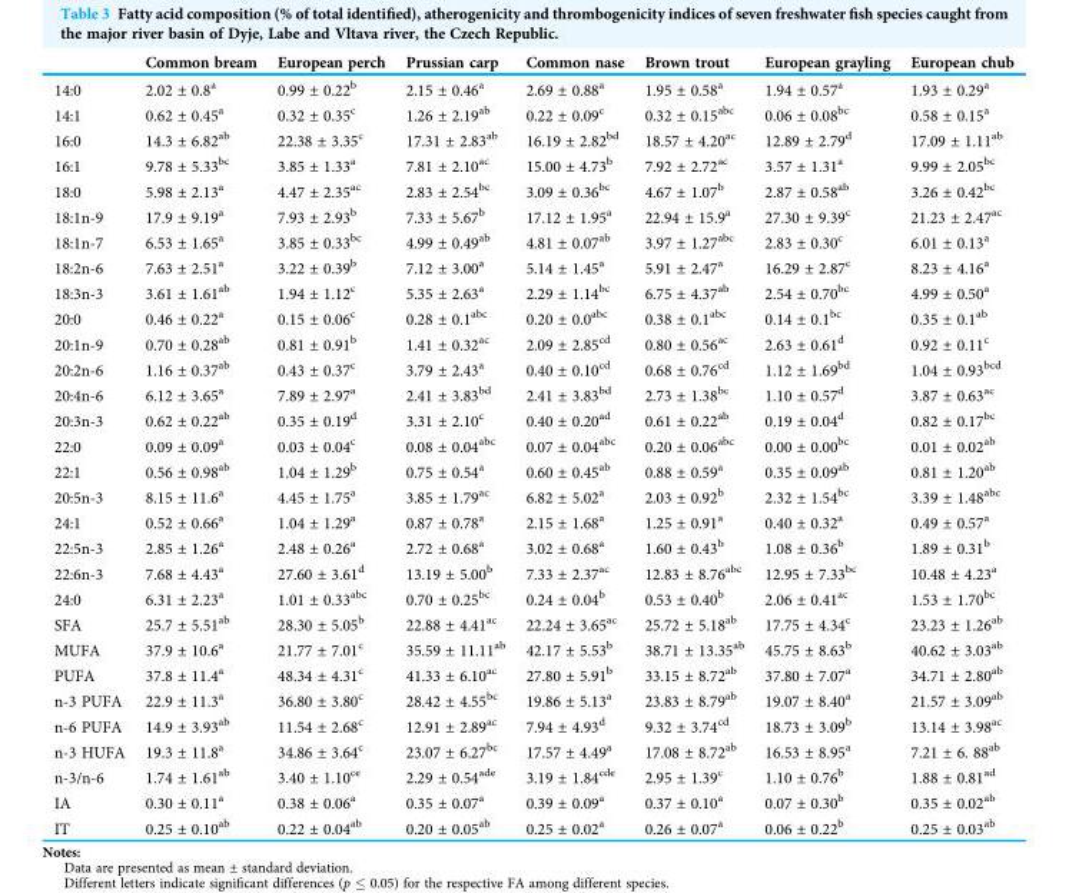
<table><thead><tr><td></td><td>Common bream</td><td>European perch</td><td>Prussian carp</td><td>Common nase</td><td>Brown trout</td><td>European grayling</td><td>European chub</td></tr></thead><tbody><tr><td>14:0</td><td>2.02 ± 0.8<sup>a</sup></td><td>0.99 ± 0.22<sup>b</sup></td><td>2.15 ± 0.46<sup>a</sup></td><td>2.69 ± 0.88<sup>a</sup></td><td>1.95 ± 0.58<sup>a</sup></td><td>1.94 ± 0.57<sup>a</sup></td><td>1.93 ± 0.29<sup>a</sup></td></tr><tr><td>14:1</td><td>0.62 ± 0.45<sup>a</sup></td><td>0.32 ± 0.35<sup>c</sup></td><td>1.26 ± 2.19<sup>ab</sup></td><td>0.22 ± 0.09<sup>c</sup></td><td>0.32 ± 0.15<sup>abc</sup></td><td>0.06 ± 0.08<sup>bc</sup></td><td>0.58 ± 0.15<sup>a</sup></td></tr><tr><td>16:0</td><td>14.3 ± 6.82<sup>ab</sup></td><td>22.38 ± 3.35<sup>c</sup></td><td>17.31 ± 2.83<sup>ab</sup></td><td>16.19 ± 2.82<sup>bd</sup></td><td>18.57 ± 4.20<sup>ac</sup></td><td>12.89 ± 2.79<sup>d</sup></td><td>17.09 ± 1.11<sup>ab</sup></td></tr><tr><td>16:1</td><td>9.78 ± 5.33<sup>bc</sup></td><td>3.85 ± 1.33<sup>a</sup></td><td>7.81 ± 2.10<sup>ac</sup></td><td>15.00 ± 4.73<sup>b</sup></td><td>7.92 ± 2.72<sup>ac</sup></td><td>3.57 ± 1.31<sup>a</sup></td><td>9.99 ± 2.05<sup>bc</sup></td></tr><tr><td>18:0</td><td>5.98 ± 2.13<sup>a</sup></td><td>4.47 ± 2.35<sup>ac</sup></td><td>2.83 ± 2.54<sup>bc</sup></td><td>3.09 ± 0.36<sup>bc</sup></td><td>4.67 ± 1.07<sup>b</sup></td><td>2.87 ± 0.58<sup>ab</sup></td><td>3.26 ± 0.42<sup>bc</sup></td></tr><tr><td>18:1n-9</td><td>17.9 ± 9.19<sup>a</sup></td><td>7.93 ± 2.93<sup>b</sup></td><td>7.33 ± 5.67<sup>b</sup></td><td>17.12 ± 1.95<sup>a</sup></td><td>22.94 ± 15.9<sup>a</sup></td><td>27.30 ± 9.39<sup>c</sup></td><td>21.23 ± 2.47<sup>ac</sup></td></tr><tr><td>18:1n-7</td><td>6.53 ± 1.65<sup>a</sup></td><td>3.85 ± 0.33<sup>bc</sup></td><td>4.99 ± 0.49<sup>ab</sup></td><td>4.81 ± 0.07<sup>ab</sup></td><td>3.97 ± 1.27<sup>abc</sup></td><td>2.83 ± 0.30<sup>c</sup></td><td>6.01 ± 0.13<sup>a</sup></td></tr><tr><td>18:2n-6</td><td>7.63 ± 2.51<sup>a</sup></td><td>3.22 ± 0.39<sup>b</sup></td><td>7.12 ± 3.00<sup>a</sup></td><td>5.14 ± 1.45<sup>a</sup></td><td>5.91 ± 2.47<sup>a</sup></td><td>16.29 ± 2.87<sup>c</sup></td><td>8.23 ± 4.16<sup>a</sup></td></tr><tr><td>18:3n-3</td><td>3.61 ± 1.61<sup>ab</sup></td><td>1.94 ± 1.12<sup>c</sup></td><td>5.35 ± 2.63<sup>a</sup></td><td>2.29 ± 1.14<sup>bc</sup></td><td>6.75 ± 4.37<sup>ab</sup></td><td>2.54 ± 0.70<sup>bc</sup></td><td>4.99 ± 0.50<sup>a</sup></td></tr><tr><td>20:0</td><td>0.46 ± 0.22<sup>a</sup></td><td>0.15 ± 0.06<sup>c</sup></td><td>0.28 ± 0.1<sup>abc</sup></td><td>0.20 ± 0.0<sup>abc</sup></td><td>0.38 ± 0.1<sup>abc</sup></td><td>0.14 ± 0.1<sup>bc</sup></td><td>0.35 ± 0.1<sup>ab</sup></td></tr><tr><td>20:1n-9</td><td>0.70 ± 0.28<sup>ab</sup></td><td>0.81 ± 0.91<sup>b</sup></td><td>1.41 ± 0.32<sup>ac</sup></td><td>2.09 ± 2.85<sup>cd</sup></td><td>0.80 ± 0.56<sup>ac</sup></td><td>2.63 ± 0.61<sup>d</sup></td><td>0.92 ± 0.11<sup>c</sup></td></tr><tr><td>20:2n-6</td><td>1.16 ± 0.37<sup>ab</sup></td><td>0.43 ± 0.37<sup>c</sup></td><td>3.79 ± 2.43<sup>a</sup></td><td>0.40 ± 0.10<sup>cd</sup></td><td>0.68 ± 0.76<sup>cd</sup></td><td>1.12 ± 1.69<sup>bd</sup></td><td>1.04 ± 0.93<sup>bcd</sup></td></tr><tr><td>20:4n-6</td><td>6.12 ± 3.65<sup>a</sup></td><td>7.89 ± 2.97<sup>a</sup></td><td>2.41 ± 3.83<sup>bd</sup></td><td>2.41 ± 3.83<sup>bd</sup></td><td>2.73 ± 1.38<sup>bc</sup></td><td>1.10 ± 0.57<sup>d</sup></td><td>3.87 ± 0.63<sup>ac</sup></td></tr><tr><td>20:3n-3</td><td>0.62 ± 0.22<sup>ab</sup></td><td>0.35 ± 0.19<sup>d</sup></td><td>3.31 ± 2.10<sup>c</sup></td><td>0.40 ± 0.20<sup>ad</sup></td><td>0.61 ± 0.22<sup>ab</sup></td><td>0.19 ± 0.04<sup>d</sup></td><td>0.82 ± 0.17<sup>bc</sup></td></tr><tr><td>22:0</td><td>0.09 ± 0.09<sup>a</sup></td><td>0.03 ± 0.04<sup>c</sup></td><td>0.08 ± 0.04<sup>abc</sup></td><td>0.07 ± 0.04<sup>abc</sup></td><td>0.20 ± 0.06<sup>abc</sup></td><td>0.00 ± 0.00<sup>bc</sup></td><td>0.01 ± 0.02<sup>ab</sup></td></tr><tr><td>22:1</td><td>0.56 ± 0.98<sup>ab</sup></td><td>1.04 ± 1.29<sup>b</sup></td><td>0.75 ± 0.54<sup>a</sup></td><td>0.60 ± 0.45<sup>ab</sup></td><td>0.88 ± 0.59<sup>a</sup></td><td>0.35 ± 0.09<sup>ab</sup></td><td>0.81 ± 1.20<sup>ab</sup></td></tr><tr><td>20:5n-3</td><td>8.15 ± 11.6<sup>a</sup></td><td>4.45 ± 1.75<sup>a</sup></td><td>3.85 ± 1.79<sup>ac</sup></td><td>6.82 ± 5.02<sup>a</sup></td><td>2.03 ± 0.92<sup>b</sup></td><td>2.32 ± 1.54<sup>bc</sup></td><td>3.39 ± 1.48<sup>abc</sup></td></tr><tr><td>24:1</td><td>0.52 ± 0.66<sup>a</sup></td><td>1.04 ± 1.29<sup>a</sup></td><td>0.87 ± 0.78<sup>a</sup></td><td>2.15 ± 1.68<sup>a</sup></td><td>1.25 ± 0.91<sup>a</sup></td><td>0.40 ± 0.32<sup>a</sup></td><td>0.49 ± 0.57<sup>a</sup></td></tr><tr><td>22:5n-3</td><td>2.85 ± 1.26<sup>a</sup></td><td>2.48 ± 0.26<sup>a</sup></td><td>2.72 ± 0.68<sup>a</sup></td><td>3.02 ± 0.68<sup>a</sup></td><td>1.60 ± 0.43<sup>b</sup></td><td>1.08 ± 0.36<sup>b</sup></td><td>1.89 ± 0.31<sup>b</sup></td></tr><tr><td>22:6n-3</td><td>7.68 ± 4.43<sup>a</sup></td><td>27.60 ± 3.61<sup>d</sup></td><td>13.19 ± 5.00<sup>b</sup></td><td>7.33 ± 2.37<sup>ac</sup></td><td>12.83 ± 8.76<sup>abc</sup></td><td>12.95 ± 7.33<sup>bc</sup></td><td>10.48 ± 4.23<sup>a</sup></td></tr><tr><td>24:0</td><td>6.31 ± 2.23<sup>a</sup></td><td>1.01 ± 0.33<sup>abc</sup></td><td>0.70 ± 0.25<sup>bc</sup></td><td>0.24 ± 0.04<sup>b</sup></td><td>0.53 ± 0.40<sup>b</sup></td><td>2.06 ± 0.41<sup>ac</sup></td><td>1.53 ± 1.70<sup>bc</sup></td></tr><tr><td>SFA</td><td>25.7 ± 5.51<sup>ab</sup></td><td>28.30 ± 5.05<sup>b</sup></td><td>22.88 ± 4.41<sup>ac</sup></td><td>22.24 ± 3.65<sup>ac</sup></td><td>25.72 ± 5.18<sup>ab</sup></td><td>17.75 ± 4.34<sup>c</sup></td><td>23.23 ± 1.26<sup>ab</sup></td></tr><tr><td>MUFA</td><td>37.9 ± 10.6<sup>a</sup></td><td>21.77 ± 7.01<sup>c</sup></td><td>35.59 ± 11.11<sup>ab</sup></td><td>42.17 ± 5.53<sup>b</sup></td><td>38.71 ± 13.35<sup>ab</sup></td><td>45.75 ± 8.63<sup>b</sup></td><td>40.62 ± 3.03<sup>ab</sup></td></tr><tr><td>PUFA</td><td>37.8 ± 11.4<sup>a</sup></td><td>48.34 ± 4.31<sup>c</sup></td><td>41.33 ± 6.10<sup>ac</sup></td><td>27.80 ± 5.91<sup>b</sup></td><td>33.15 ± 8.72<sup>ab</sup></td><td>37.80 ± 7.07<sup>a</sup></td><td>34.71 ± 2.80<sup>ab</sup></td></tr><tr><td>n-3 PUFA</td><td>22.9 ± 11.3<sup>a</sup></td><td>36.80 ± 3.80<sup>c</sup></td><td>28.42 ± 4.55<sup>bc</sup></td><td>19.86 ± 5.13<sup>a</sup></td><td>23.83 ± 8.79<sup>ab</sup></td><td>19.07 ± 8.40<sup>a</sup></td><td>21.57 ± 3.09<sup>ab</sup></td></tr><tr><td>n-6 PUFA</td><td>14.9 ± 3.93<sup>ab</sup></td><td>11.54 ± 2.68<sup>c</sup></td><td>12.91 ± 2.89<sup>ac</sup></td><td>7.94 ± 4.93<sup>d</sup></td><td>9.32 ± 3.74<sup>cd</sup></td><td>18.73 ± 3.09<sup>b</sup></td><td>13.14 ± 3.98<sup>ac</sup></td></tr><tr><td>n-3 HUFA</td><td>19.3 ± 11.8<sup>a</sup></td><td>34.86 ± 3.64<sup>c</sup></td><td>23.07 ± 6.27<sup>bc</sup></td><td>17.57 ± 4.49<sup>a</sup></td><td>17.08 ± 8.72<sup>ab</sup></td><td>16.53 ± 8.95<sup>a</sup></td><td>7.21 ± 6. 88<sup>ab</sup></td></tr><tr><td>n-3/n-6</td><td>1.74 ± 1.61<sup>ab</sup></td><td>3.40 ± 1.10<sup>ce</sup></td><td>2.29 ± 0.54<sup>ade</sup></td><td>3.19 ± 1.84<sup>cde</sup></td><td>2.95 ± 1.39<sup>c</sup></td><td>1.10 ± 0.76<sup>b</sup></td><td>1.88 ± 0.81<sup>ad</sup></td></tr><tr><td>IA</td><td>0.30 ± 0.11<sup>a</sup></td><td>0.38 ± 0.06<sup>a</sup></td><td>0.35 ± 0.07<sup>a</sup></td><td>0.39 ± 0.09<sup>a</sup></td><td>0.37 ± 0.10<sup>a</sup></td><td>0.07 ± 0.30<sup>b</sup></td><td>0.35 ± 0.02<sup>ab</sup></td></tr><tr><td>IT</td><td>0.25 ± 0.10<sup>ab</sup></td><td>0.22 ± 0.04<sup>ab</sup></td><td>0.20 ± 0.05<sup>ab</sup></td><td>0.25 ± 0.02<sup>a</sup></td><td>0.26 ± 0.07<sup>a</sup></td><td>0.06 ± 0.22<sup>b</sup></td><td>0.25 ± 0.03<sup>ab</sup></td></tr></tbody></table>